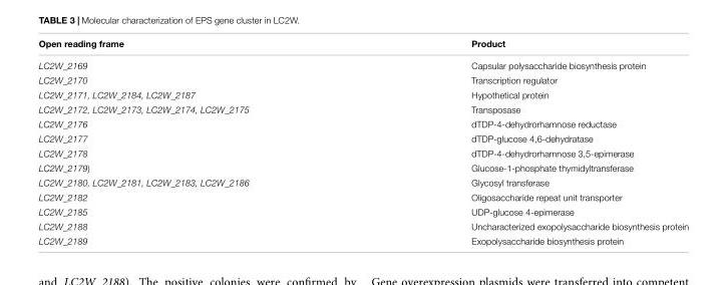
<table><thead><tr><td>Open reading frame</td><td>Product</td></tr></thead><tbody><tr><td>LC2W_2169</td><td>Capsular polysaccharide biosynthesis protein</td></tr><tr><td>LC2W_2170</td><td>Transcription regulator</td></tr><tr><td>LC2W_2171, LC2W_2184, LC2W_2187</td><td>Hypothetical protein</td></tr><tr><td>LC2W_2172, LC2W_2173, LC2W_2174, LC2W_2175</td><td>Transposase</td></tr><tr><td>LC2W_2176</td><td>dTDP-4-dehydrorhamnose reductase</td></tr><tr><td>LC2W_2177</td><td>dTDP-glucose 4,6-dehydratase</td></tr><tr><td>LC2W_2178</td><td>dTDP-4-dehydrorhamnose 3,5-epimerase</td></tr><tr><td>LC2W_2179)</td><td>Glucose-1-phosphate thymidyltransferase</td></tr><tr><td>LC2W_2180, LC2W_2181, LC2W_2183, LC2W_2186</td><td>Glycosyl transferase</td></tr><tr><td>LC2W_2182</td><td>Oligosaccharide repeat unit transporter</td></tr><tr><td>LC2W_2185</td><td>UDP-glucose 4-epimerase</td></tr><tr><td>LC2W_2188</td><td>Uncharacterized exopolysaccharide biosynthesis protein</td></tr><tr><td>LC2W_2189</td><td>Exopolysaccharide biosynthesis protein</td></tr></tbody></table>